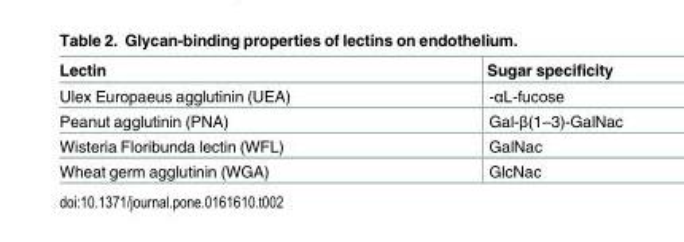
<table><thead><tr><td>Lectin</td><td>Sugar specificity</td></tr></thead><tbody><tr><td>Ulex Europaeus agglutinin (UEA)</td><td>-αL-fucose</td></tr><tr><td>Peanut agglutinin (PNA)</td><td>Gal-β(1–3)-GalNac</td></tr><tr><td>Wisteria Floribunda lectin (WFL)</td><td>GalNac</td></tr><tr><td>Wheat germ agglutinin (WGA)</td><td>GlcNac</td></tr></tbody></table>